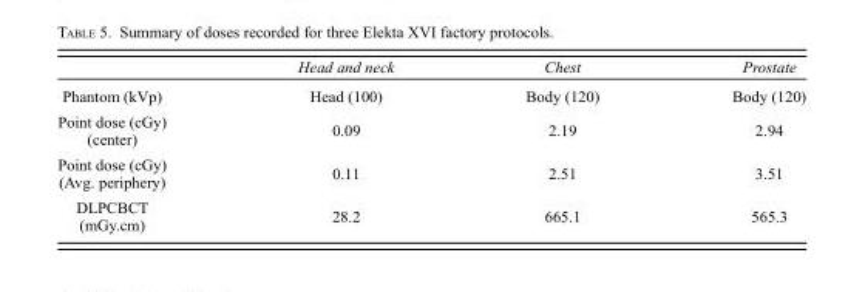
<table><thead><tr><td></td><td>Head and neck</td><td>Chest</td><td>Prostate</td></tr></thead><tbody><tr><td>Phantom (kVp)</td><td>Head (100)</td><td>Body (120)</td><td>Body (120)</td></tr><tr><td>Point dose (cGy) (center)</td><td>0.09</td><td>2.19</td><td>2.94</td></tr><tr><td>Point dose (cGy) (Avg. periphery)</td><td>0.11</td><td>2.51</td><td>3.51</td></tr><tr><td>DLPCBCT (mGy.cm)</td><td>28.2</td><td>665.1</td><td>565.3</td></tr></tbody></table>